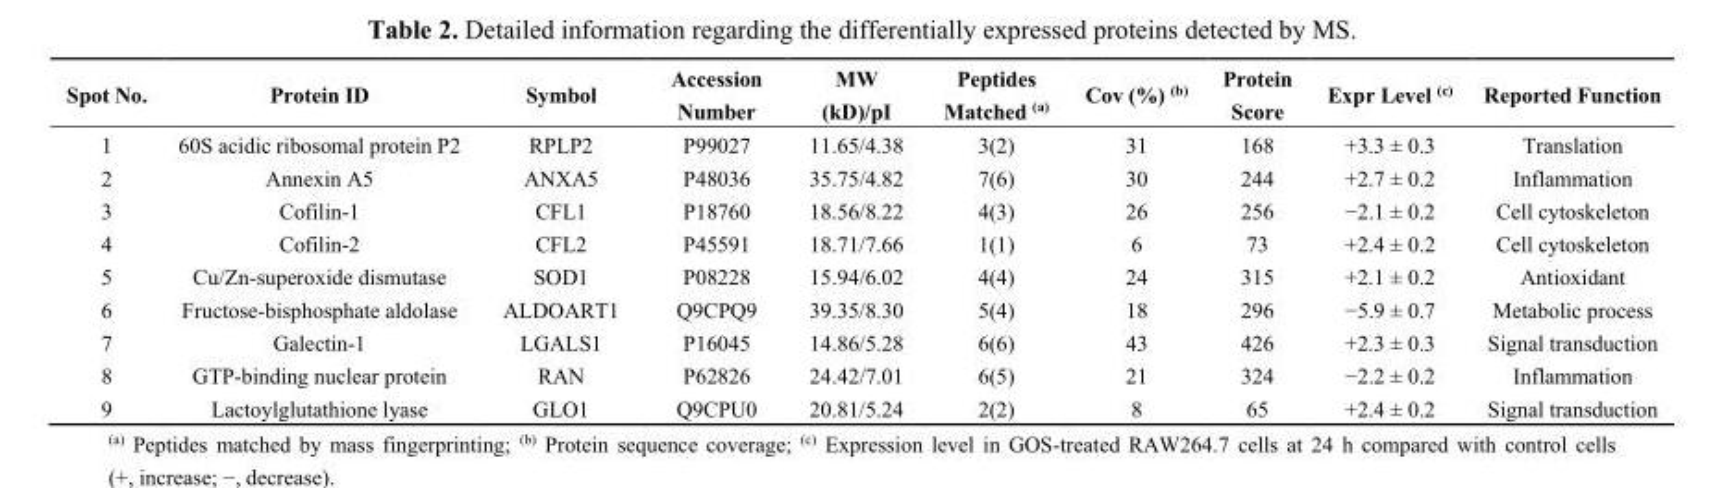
<table><thead><tr><td>Spot No.</td><td>Protein ID</td><td>Symbol</td><td>Accession Number</td><td>MW (kD)/pI</td><td>Peptides Matched <sup>(a)</sup></td><td>Cov (%) <sup>(b)</sup></td><td>Protein Score</td><td>Expr Level <sup>(c)</sup></td><td>Reported Function</td></tr></thead><tbody><tr><td>1</td><td>60S acidic ribosomal protein P2</td><td>RPLP2</td><td>P99027</td><td>11.65/4.38</td><td>3(2)</td><td>31</td><td>168</td><td>+3.3 ± 0.3</td><td>Translation</td></tr><tr><td>2</td><td>Annexin A5</td><td>ANXA5</td><td>P48036</td><td>35.75/4.82</td><td>7(6)</td><td>30</td><td>244</td><td>+2.7 ± 0.2</td><td>Inflammation</td></tr><tr><td>3</td><td>Cofilin-1</td><td>CFL1</td><td>P18760</td><td>18.56/8.22</td><td>4(3)</td><td>26</td><td>256</td><td>−2.1 ± 0.2</td><td>Cell cytoskeleton</td></tr><tr><td>4</td><td>Cofilin-2</td><td>CFL2</td><td>P45591</td><td>18.71/7.66</td><td>1(1)</td><td>6</td><td>73</td><td>+2.4 ± 0.2</td><td>Cell cytoskeleton</td></tr><tr><td>5</td><td>Cu/Zn-superoxide dismutase</td><td>SOD1</td><td>P08228</td><td>15.94/6.02</td><td>4(4)</td><td>24</td><td>315</td><td>+2.1 ± 0.2</td><td>Antioxidant</td></tr><tr><td>6</td><td>Fructose-bisphosphate aldolase</td><td>ALDOART1</td><td>Q9CPQ9</td><td>39.35/8.30</td><td>5(4)</td><td>18</td><td>296</td><td>−5.9 ± 0.7</td><td>Metabolic process</td></tr><tr><td>7</td><td>Galectin-1</td><td>LGALS1</td><td>P16045</td><td>14.86/5.28</td><td>6(6)</td><td>43</td><td>426</td><td>+2.3 ± 0.3</td><td>Signal transduction</td></tr><tr><td>8</td><td>GTP-binding nuclear protein</td><td>RAN</td><td>P62826</td><td>24.42/7.01</td><td>6(5)</td><td>21</td><td>324</td><td>−2.2 ± 0.2</td><td>Inflammation</td></tr><tr><td>9</td><td>Lactoylglutathione lyase</td><td>GLO1</td><td>Q9CPU0</td><td>20.81/5.24</td><td>2(2)</td><td>8</td><td>65</td><td>+2.4 ± 0.2</td><td>Signal transduction</td></tr></tbody></table>